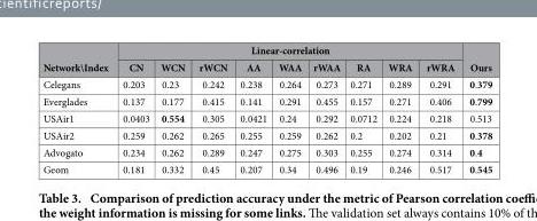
<table><thead><tr><td rowspan="2">Network\Index</td><td colspan="9">Linear-correlation</td><td rowspan="2">Ours</td></tr><tr><td>CN</td><td>WCN</td><td>rWCN</td><td>AA</td><td>WAA</td><td>rWAA</td><td>RA</td><td>WRA</td><td>rWRA</td></tr></thead><tbody><tr><td>Celegans</td><td>0.203</td><td>0.23</td><td>0.242</td><td>0.238</td><td>0.264</td><td>0.273</td><td>0.271</td><td>0.289</td><td>0.291</td><td>0.379</td></tr><tr><td>Everglades</td><td>0.137</td><td>0.177</td><td>0.415</td><td>0.141</td><td>0.291</td><td>0.455</td><td>0.157</td><td>0.271</td><td>0.406</td><td>0.799</td></tr><tr><td>USAir1</td><td>0.0403</td><td>0.554</td><td>0.305</td><td>0.0421</td><td>0.24</td><td>0.292</td><td>0.0712</td><td>0.224</td><td>0.218</td><td>0.513</td></tr><tr><td>USAir2</td><td>0.259</td><td>0.262</td><td>0.265</td><td>0.255</td><td>0.259</td><td>0.262</td><td>0.2</td><td>0.202</td><td>0.21</td><td>0.378</td></tr><tr><td>Advogato</td><td>0.234</td><td>0.262</td><td>0.289</td><td>0.247</td><td>0.275</td><td>0.303</td><td>0.255</td><td>0.274</td><td>0.314</td><td>0.4</td></tr><tr><td>Geom</td><td>0.181</td><td>0.332</td><td>0.45</td><td>0.207</td><td>0.34</td><td>0.496</td><td>0.19</td><td>0.246</td><td>0.517</td><td>0.545</td></tr></tbody></table>